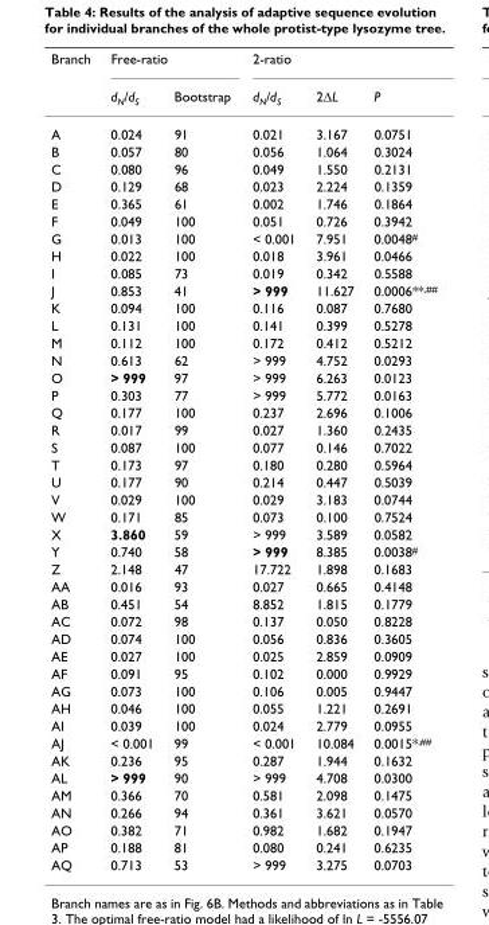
<table><thead><tr><td rowspan="2">Branch</td><td colspan="2">Free-ratio</td><td colspan="3">2-ratio</td></tr><tr><td>d<sub>N</sub>/d<sub>S</sub></td><td>Bootstrap</td><td>d<sub>N</sub>/d<sub>S</sub></td><td>2ΔL</td><td>P</td></tr></thead><tbody><tr><td>A</td><td>0.024</td><td>91</td><td>0.021</td><td>3.167</td><td>0.0751</td></tr><tr><td>B</td><td>0.057</td><td>80</td><td>0.056</td><td>1.064</td><td>0.3024</td></tr><tr><td>C</td><td>0.080</td><td>96</td><td>0.049</td><td>1.550</td><td>0.2131</td></tr><tr><td>D</td><td>0.129</td><td>68</td><td>0.023</td><td>2.224</td><td>0.1359</td></tr><tr><td>E</td><td>0.365</td><td>61</td><td>0.002</td><td>1.746</td><td>0.1864</td></tr><tr><td>F</td><td>0.049</td><td>100</td><td>0.051</td><td>0.726</td><td>0.3942</td></tr><tr><td>G</td><td>0.013</td><td>100</td><td>&lt; 0.001</td><td>7.951</td><td>0.0048<sup>#</sup></td></tr><tr><td>H</td><td>0.022</td><td>100</td><td>0.018</td><td>3.961</td><td>0.0466</td></tr><tr><td>I</td><td>0.085</td><td>73</td><td>0.019</td><td>0.342</td><td>0.5588</td></tr><tr><td>J</td><td>0.853</td><td>41</td><td>&gt; 999</td><td>11.627</td><td>0.0006**<sup>,##</sup></td></tr><tr><td>K</td><td>0.094</td><td>100</td><td>0.116</td><td>0.087</td><td>0.7680</td></tr><tr><td>L</td><td>0.131</td><td>100</td><td>0.141</td><td>0.399</td><td>0.5278</td></tr><tr><td>M</td><td>0.112</td><td>100</td><td>0.172</td><td>0.412</td><td>0.5212</td></tr><tr><td>N</td><td>0.613</td><td>62</td><td>&gt; 999</td><td>4.752</td><td>0.0293</td></tr><tr><td>O</td><td>&gt; 999</td><td>97</td><td>&gt; 999</td><td>6.263</td><td>0.0123</td></tr><tr><td>P</td><td>0.303</td><td>77</td><td>&gt; 999</td><td>5.772</td><td>0.0163</td></tr><tr><td>Q</td><td>0.177</td><td>100</td><td>0.237</td><td>2.696</td><td>0.1006</td></tr><tr><td>R</td><td>0.017</td><td>99</td><td>0.027</td><td>1.360</td><td>0.2435</td></tr><tr><td>S</td><td>0.087</td><td>100</td><td>0.077</td><td>0.146</td><td>0.7022</td></tr><tr><td>T</td><td>0.173</td><td>97</td><td>0.180</td><td>0.280</td><td>0.5964</td></tr><tr><td>U</td><td>0.177</td><td>90</td><td>0.214</td><td>0.447</td><td>0.5039</td></tr><tr><td>V</td><td>0.029</td><td>100</td><td>0.029</td><td>3.183</td><td>0.0744</td></tr><tr><td>W</td><td>0.171</td><td>85</td><td>0.073</td><td>0.100</td><td>0.7524</td></tr><tr><td>X</td><td>3.860</td><td>59</td><td>&gt; 999</td><td>3.589</td><td>0.0582</td></tr><tr><td>Y</td><td>0.740</td><td>58</td><td>&gt; 999</td><td>8.385</td><td>0.0038<sup>#</sup></td></tr><tr><td>Z</td><td>2.148</td><td>47</td><td>17.722</td><td>1.898</td><td>0.1683</td></tr><tr><td>AA</td><td>0.016</td><td>93</td><td>0.027</td><td>0.665</td><td>0.4148</td></tr><tr><td>AB</td><td>0.451</td><td>54</td><td>8.852</td><td>1.815</td><td>0.1779</td></tr><tr><td>AC</td><td>0.072</td><td>98</td><td>0.137</td><td>0.050</td><td>0.8228</td></tr><tr><td>AD</td><td>0.074</td><td>100</td><td>0.056</td><td>0.836</td><td>0.3605</td></tr><tr><td>AE</td><td>0.027</td><td>100</td><td>0.025</td><td>2.859</td><td>0.0909</td></tr><tr><td>AF</td><td>0.091</td><td>95</td><td>0.102</td><td>0.000</td><td>0.9929</td></tr><tr><td>AG</td><td>0.073</td><td>100</td><td>0.106</td><td>0.005</td><td>0.9447</td></tr><tr><td>AH</td><td>0.046</td><td>100</td><td>0.055</td><td>1.221</td><td>0.2691</td></tr><tr><td>AI</td><td>0.039</td><td>100</td><td>0.024</td><td>2.779</td><td>0.0955</td></tr><tr><td>AJ</td><td>&lt; 0.001</td><td>99</td><td>&lt; 0.001</td><td>10.084</td><td>0.0015*<sup>,##</sup></td></tr><tr><td>AK</td><td>0.236</td><td>95</td><td>0.287</td><td>1.944</td><td>0.1632</td></tr><tr><td>AL</td><td>&gt; 999</td><td>90</td><td>&gt; 999</td><td>4.708</td><td>0.0300</td></tr><tr><td>AM</td><td>0.366</td><td>70</td><td>0.581</td><td>2.098</td><td>0.1475</td></tr><tr><td>AN</td><td>0.266</td><td>94</td><td>0.361</td><td>3.621</td><td>0.0570</td></tr><tr><td>AO</td><td>0.382</td><td>71</td><td>0.982</td><td>1.682</td><td>0.1947</td></tr><tr><td>AP</td><td>0.188</td><td>81</td><td>0.080</td><td>0.241</td><td>0.6235</td></tr><tr><td>AQ</td><td>0.713</td><td>53</td><td>&gt; 999</td><td>3.275</td><td>0.0703</td></tr></tbody></table>